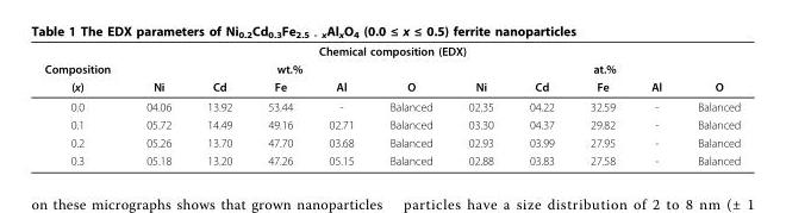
<table><thead><tr><td colspan="11">Chemical composition (EDX)</td></tr><tr><td rowspan="2">Composition (x)</td><td colspan="5">wt.%</td><td colspan="5">at.%</td></tr><tr><td>Ni</td><td>Cd</td><td>Fe</td><td>Al</td><td>O</td><td>Ni</td><td>Cd</td><td>Fe</td><td>Al</td><td>O</td></tr></thead><tbody><tr><td>0.0</td><td>04.06</td><td>13.92</td><td>53.44</td><td>-</td><td>Balanced</td><td>02.35</td><td>04.22</td><td>32.59</td><td>-</td><td>Balanced</td></tr><tr><td>0.1</td><td>05.72</td><td>14.49</td><td>49.16</td><td>02.71</td><td>Balanced</td><td>03.30</td><td>04.37</td><td>29.82</td><td>-</td><td>Balanced</td></tr><tr><td>0.2</td><td>05.26</td><td>13.70</td><td>47.70</td><td>03.68</td><td>Balanced</td><td>02.93</td><td>03.99</td><td>27.95</td><td>-</td><td>Balanced</td></tr><tr><td>0.3</td><td>05.18</td><td>13.20</td><td>47.26</td><td>05.15</td><td>Balanced</td><td>02.88</td><td>03.83</td><td>27.58</td><td>-</td><td>Balanced</td></tr></tbody></table>